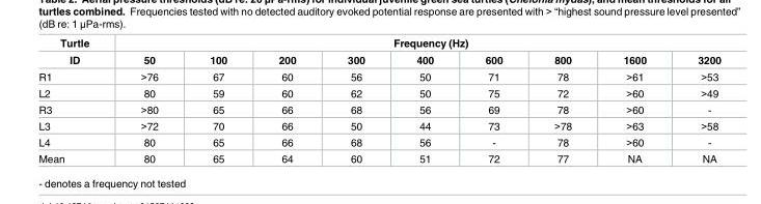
<table><thead><tr><td rowspan="2">Turtle ID</td><td colspan="9">Frequency (Hz)</td></tr><tr><td>50</td><td>100</td><td>200</td><td>300</td><td>400</td><td>600</td><td>800</td><td>1600</td><td>3200</td></tr></thead><tbody><tr><td>R1</td><td>&gt;76</td><td>67</td><td>60</td><td>56</td><td>50</td><td>71</td><td>78</td><td>&gt;61</td><td>&gt;53</td></tr><tr><td>L2</td><td>80</td><td>59</td><td>60</td><td>62</td><td>50</td><td>75</td><td>72</td><td>&gt;60</td><td>&gt;49</td></tr><tr><td>R3</td><td>&gt;80</td><td>65</td><td>66</td><td>68</td><td>56</td><td>69</td><td>78</td><td>&gt;60</td><td>-</td></tr><tr><td>L3</td><td>&gt;72</td><td>70</td><td>66</td><td>50</td><td>44</td><td>73</td><td>&gt;78</td><td>&gt;63</td><td>&gt;58</td></tr><tr><td>L4</td><td>80</td><td>65</td><td>66</td><td>68</td><td>56</td><td>-</td><td>78</td><td>&gt;60</td><td>-</td></tr><tr><td>Mean</td><td>80</td><td>65</td><td>64</td><td>60</td><td>51</td><td>72</td><td>77</td><td>NA</td><td>NA</td></tr></tbody></table>